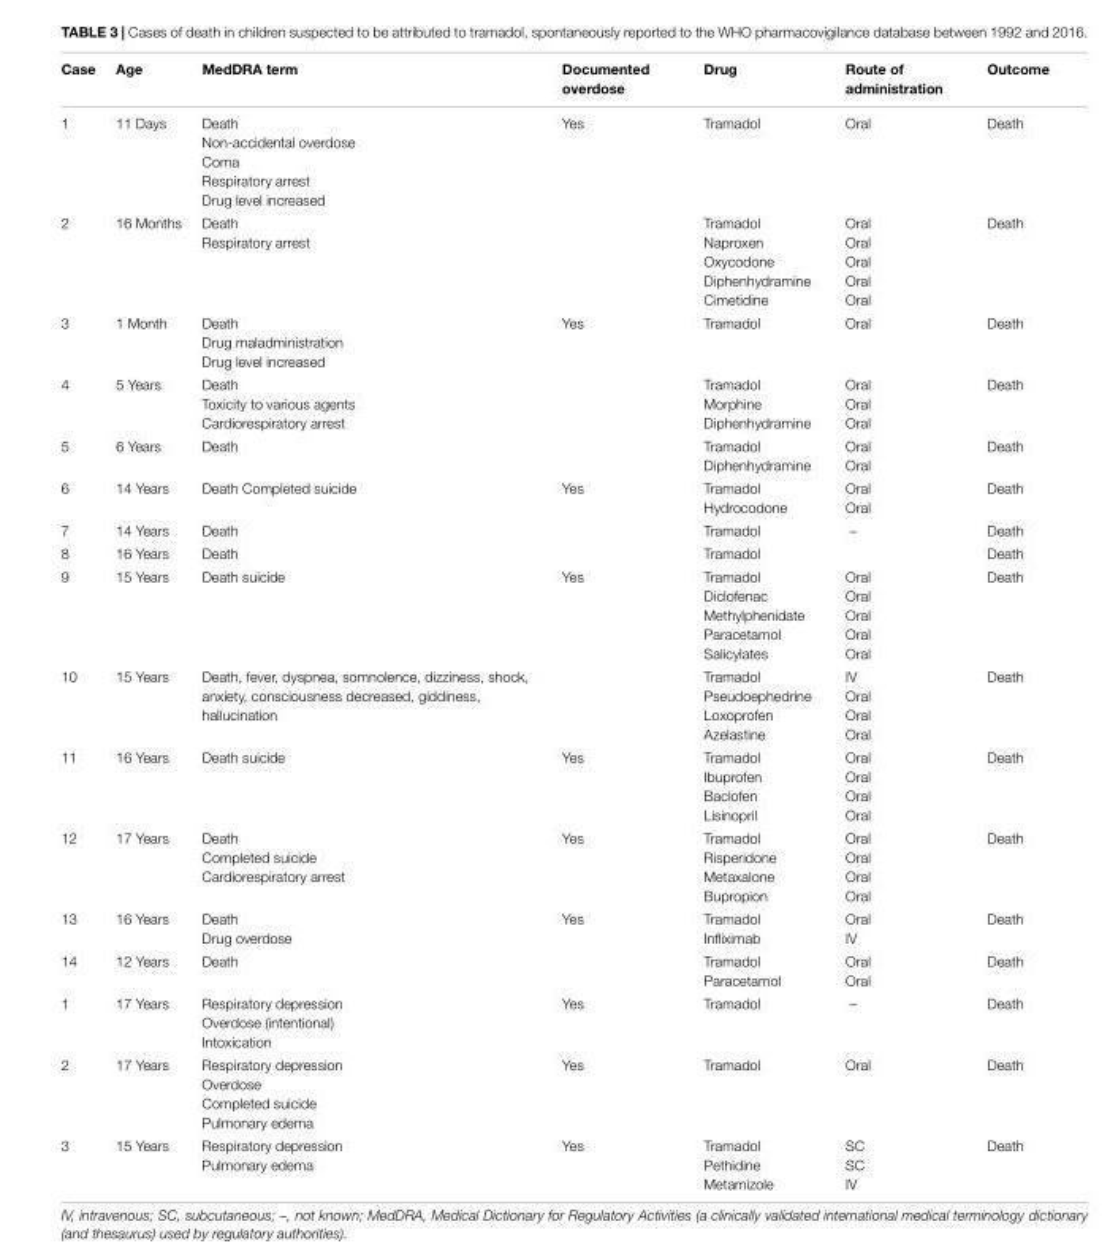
<table><thead><tr><td>Case</td><td>Age</td><td>MedDRA term</td><td>Documented overdose</td><td>Drug</td><td>Route of administration</td><td>Outcome</td></tr></thead><tbody><tr><td>1</td><td>11 Days</td><td>Death Non-accidental overdose Coma Respiratory arrest Drug level increased</td><td>Yes</td><td>Tramadol</td><td>Oral</td><td>Death</td></tr><tr><td>2</td><td>16 Months</td><td>Death Respiratory arrest</td><td></td><td>Tramadol Naproxen Oxycodone Diphenhydramine Cimetidine</td><td>Oral Oral Oral Oral Oral</td><td>Death</td></tr><tr><td>3</td><td>1 Month</td><td>Death Drug maladministration Drug level increased</td><td>Yes</td><td>Tramadol</td><td>Oral</td><td>Death</td></tr><tr><td>4</td><td>5 Years</td><td>Death Toxicity to various agents Cardiorespiratory arrest</td><td></td><td>Tramadol Morphine Diphenhydramine</td><td>Oral Oral Oral</td><td>Death</td></tr><tr><td>5</td><td>6 Years</td><td>Death</td><td></td><td>Tramadol Diphenhydramine</td><td>Oral Oral</td><td>Death</td></tr><tr><td>6</td><td>14 Years</td><td>Death Completed suicide</td><td>Yes</td><td>Tramadol Hydrocodone</td><td>Oral Oral</td><td>Death</td></tr><tr><td>7</td><td>14 Years</td><td>Death</td><td></td><td>Tramadol</td><td>–</td><td>Death</td></tr><tr><td>8</td><td>16 Years</td><td>Death</td><td></td><td>Tramadol</td><td></td><td>Death</td></tr><tr><td>9</td><td>15 Years</td><td>Death suicide</td><td>Yes</td><td>Tramadol Diclofenac Methylphenidate Paracetamol Salicylates</td><td>Oral Oral Oral Oral Oral</td><td>Death</td></tr><tr><td>10</td><td>15 Years</td><td>Death, fever, dyspnea, somnolence, dizziness, shock, anxiety, consciousness decreased, giddiness, hallucination</td><td></td><td>Tramadol Pseudoephedrine Loxoprofen Azelastine</td><td>IV Oral Oral Oral</td><td>Death</td></tr><tr><td>11</td><td>16 Years</td><td>Death suicide</td><td>Yes</td><td>Tramadol Ibuprofen Baclofen Lisinopril</td><td>Oral Oral Oral Oral</td><td>Death</td></tr><tr><td>12</td><td>17 Years</td><td>Death Completed suicide Cardiorespiratory arrest</td><td>Yes</td><td>Tramadol Risperidone Metaxalone Bupropion</td><td>Oral Oral Oral Oral</td><td>Death</td></tr><tr><td>13</td><td>16 Years</td><td>Death Drug overdose</td><td>Yes</td><td>Tramadol Infliximab</td><td>Oral IV</td><td>Death</td></tr><tr><td>14</td><td>12 Years</td><td>Death</td><td></td><td>Tramadol Paracetamol</td><td>Oral Oral</td><td>Death</td></tr><tr><td>1</td><td>17 Years</td><td>Respiratory depression Overdose (intentional) Intoxication</td><td>Yes</td><td>Tramadol</td><td>–</td><td>Death</td></tr><tr><td>2</td><td>17 Years</td><td>Respiratory depression Overdose Completed suicide Pulmonary edema</td><td>Yes</td><td>Tramadol</td><td>Oral</td><td>Death</td></tr><tr><td>3</td><td>15 Years</td><td>Respiratory depression Pulmonary edema</td><td>Yes</td><td>Tramadol Pethidine Metamizole</td><td>SC SC IV</td><td>Death</td></tr></tbody></table>